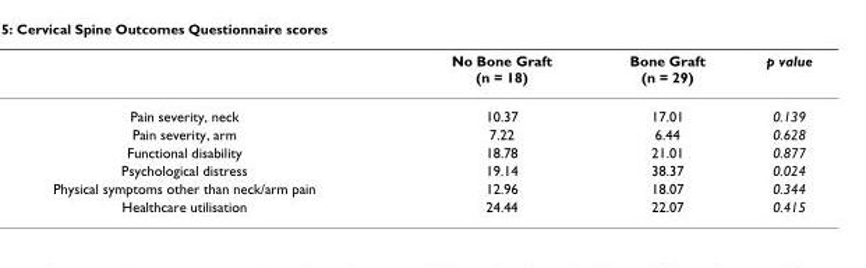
<table><thead><tr><td></td><td>No Bone Graft (n = 18)</td><td>Bone Graft (n = 29)</td><td>p value</td></tr></thead><tbody><tr><td>Pain severity, neck</td><td>10.37</td><td>17.01</td><td>0.139</td></tr><tr><td>Pain severity, arm</td><td>7.22</td><td>6.44</td><td>0.628</td></tr><tr><td>Functional disability</td><td>18.78</td><td>21.01</td><td>0.877</td></tr><tr><td>Psychological distress</td><td>19.14</td><td>38.37</td><td>0.024</td></tr><tr><td>Physical symptoms other than neck/arm pain</td><td>12.96</td><td>18.07</td><td>0.344</td></tr><tr><td>Healthcare utilisation</td><td>24.44</td><td>22.07</td><td>0.415</td></tr></tbody></table>